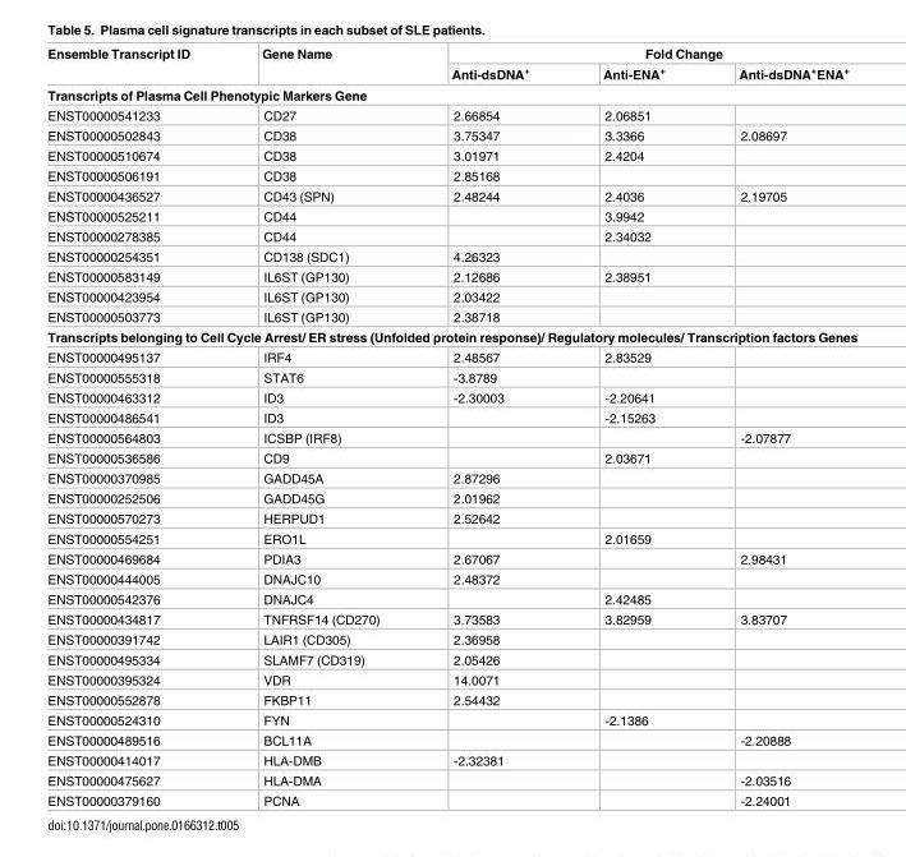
<table><thead><tr><td rowspan="2">Ensemble Transcript ID</td><td rowspan="2">Gene Name</td><td colspan="3">Fold Change</td></tr><tr><td>Anti-dsDNA<sup>+</sup></td><td>Anti-ENA<sup>+</sup></td><td>Anti-dsDNA<sup>+</sup>ENA<sup>+</sup></td></tr></thead><tbody><tr><td colspan="5">Transcripts of Plasma Cell Phenotypic Markers Gene</td></tr><tr><td>ENST00000541233</td><td>CD27</td><td>2.66854</td><td>2.06851</td><td></td></tr><tr><td>ENST00000502843</td><td>CD38</td><td>3.75347</td><td>3.3366</td><td>2.08697</td></tr><tr><td>ENST00000510674</td><td>CD38</td><td>3.01971</td><td>2.4204</td><td></td></tr><tr><td>ENST00000506191</td><td>CD38</td><td>2.85168</td><td></td><td></td></tr><tr><td>ENST00000436527</td><td>CD43 (SPN)</td><td>2.48244</td><td>2.4036</td><td>2.19705</td></tr><tr><td>ENST00000525211</td><td>CD44</td><td></td><td>3.9942</td><td></td></tr><tr><td>ENST00000278385</td><td>CD44</td><td></td><td>2.34032</td><td></td></tr><tr><td>ENST00000254351</td><td>CD138 (SDC1)</td><td>4.26323</td><td></td><td></td></tr><tr><td>ENST00000583149</td><td>IL6ST (GP130)</td><td>2.12686</td><td>2.38951</td><td></td></tr><tr><td>ENST00000423954</td><td>IL6ST (GP130)</td><td>2.03422</td><td></td><td></td></tr><tr><td>ENST00000503773</td><td>IL6ST (GP130)</td><td>2.38718</td><td></td><td></td></tr><tr><td colspan="5">Transcripts belonging to Cell Cycle Arrest/ ER stress (Unfolded protein response)/ Regulatory molecules/ Transcription factors Genes</td></tr><tr><td>ENST00000495137</td><td>IRF4</td><td>2.48567</td><td>2.83529</td><td></td></tr><tr><td>ENST00000555318</td><td>STAT6</td><td>-3.8789</td><td></td><td></td></tr><tr><td>ENST00000463312</td><td>ID3</td><td>-2.30003</td><td>-2.20641</td><td></td></tr><tr><td>ENST00000486541</td><td>ID3</td><td></td><td>-2.15263</td><td></td></tr><tr><td>ENST00000564803</td><td>ICSBP (IRF8)</td><td></td><td></td><td>-2.07877</td></tr><tr><td>ENST00000536586</td><td>CD9</td><td></td><td>2.03671</td><td></td></tr><tr><td>ENST00000370985</td><td>GADD45A</td><td>2.87296</td><td></td><td></td></tr><tr><td>ENST00000252506</td><td>GADD45G</td><td>2.01962</td><td></td><td></td></tr><tr><td>ENST00000570273</td><td>HERPUD1</td><td>2.52642</td><td></td><td></td></tr><tr><td>ENST00000554251</td><td>ERO1L</td><td></td><td>2.01659</td><td></td></tr><tr><td>ENST00000469684</td><td>PDIA3</td><td>2.67067</td><td></td><td>2.98431</td></tr><tr><td>ENST00000444005</td><td>DNAJC10</td><td>2.48372</td><td></td><td></td></tr><tr><td>ENST00000542376</td><td>DNAJC4</td><td></td><td>2.42485</td><td></td></tr><tr><td>ENST00000434817</td><td>TNFRSF14 (CD270)</td><td>3.73583</td><td>3.82959</td><td>3.83707</td></tr><tr><td>ENST00000391742</td><td>LAIR1 (CD305)</td><td>2.36958</td><td></td><td></td></tr><tr><td>ENST00000495334</td><td>SLAMF7 (CD319)</td><td>2.05426</td><td></td><td></td></tr><tr><td>ENST00000395324</td><td>VDR</td><td>14.0071</td><td></td><td></td></tr><tr><td>ENST00000552878</td><td>FKBP11</td><td>2.54432</td><td></td><td></td></tr><tr><td>ENST00000524310</td><td>FYN</td><td></td><td>-2.1386</td><td></td></tr><tr><td>ENST00000489516</td><td>BCL11A</td><td></td><td></td><td>-2.20888</td></tr><tr><td>ENST00000414017</td><td>HLA-DMB</td><td>-2.32381</td><td></td><td></td></tr><tr><td>ENST00000475627</td><td>HLA-DMA</td><td></td><td></td><td>-2.03516</td></tr><tr><td>ENST00000379160</td><td>PCNA</td><td></td><td></td><td>-2.24001</td></tr></tbody></table>